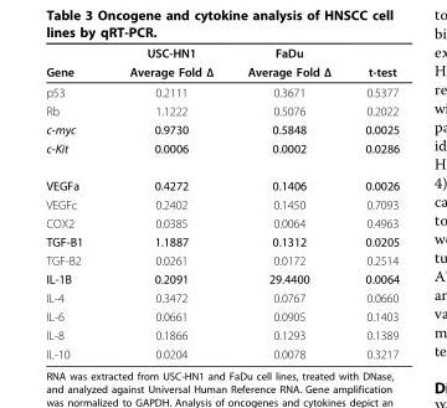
<table><thead><tr><td rowspan="2">Gene</td><td rowspan="2">USC-HN1 Average Fold Δ</td><td rowspan="2">FaDu Average Fold Δ</td><td rowspan="2">t-test</td></tr><tr></tr></thead><tbody><tr><td>p53</td><td>0.2111</td><td>0.3671</td><td>0.5377</td></tr><tr><td>Rb</td><td>1.1222</td><td>0.5076</td><td>0.2022</td></tr><tr><td>c-myc</td><td>0.9730</td><td>0.5848</td><td>0.0025</td></tr><tr><td>c-Kit</td><td>0.0006</td><td>0.0002</td><td>0.0286</td></tr><tr><td>VEGFa</td><td>0.4272</td><td>0.1406</td><td>0.0026</td></tr><tr><td>VEGFc</td><td>0.2402</td><td>0.1450</td><td>0.7093</td></tr><tr><td>COX2</td><td>0.0385</td><td>0.0064</td><td>0.4963</td></tr><tr><td>TGF-B1</td><td>1.1887</td><td>0.1312</td><td>0.0205</td></tr><tr><td>TGF-B2</td><td>0.0261</td><td>0.0172</td><td>0.2514</td></tr><tr><td>IL-1B</td><td>0.2091</td><td>29.4400</td><td>0.0064</td></tr><tr><td>IL-4</td><td>0.3472</td><td>0.0767</td><td>0.0660</td></tr><tr><td>IL-6</td><td>0.0661</td><td>0.0905</td><td>0.1403</td></tr><tr><td>IL-8</td><td>0.1866</td><td>0.1293</td><td>0.1389</td></tr><tr><td>IL-10</td><td>0.0204</td><td>0.0078</td><td>0.3217</td></tr></tbody></table>